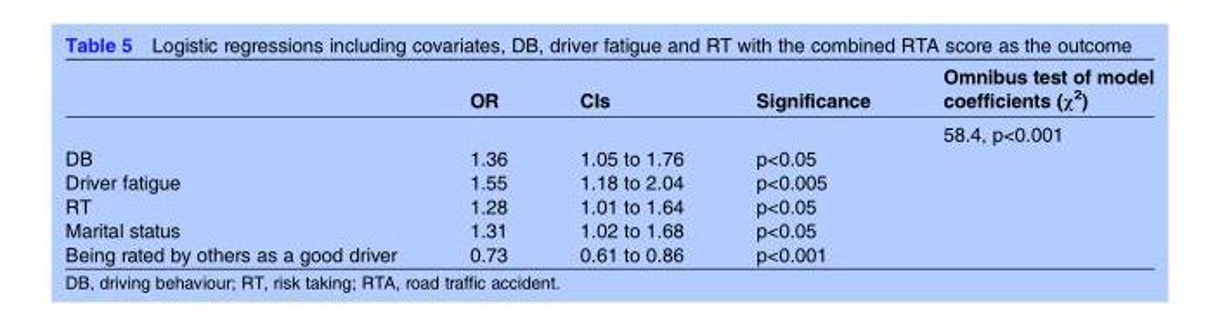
<table><thead><tr><td></td><td>OR</td><td>CIs</td><td>Significance</td><td>Omnibus test of model coefficients (χ<sup>2</sup>)</td></tr></thead><tbody><tr><td></td><td></td><td></td><td></td><td>58.4, p&lt;0.001</td></tr><tr><td>DB</td><td>1.36</td><td>1.05 to 1.76</td><td>p&lt;0.05</td><td></td></tr><tr><td>Driver fatigue</td><td>1.55</td><td>1.18 to 2.04</td><td>p&lt;0.005</td><td></td></tr><tr><td>RT</td><td>1.28</td><td>1.01 to 1.64</td><td>p&lt;0.05</td><td></td></tr><tr><td>Marital status</td><td>1.31</td><td>1.02 to 1.68</td><td>p&lt;0.05</td><td></td></tr><tr><td>Being rated by others as a good driver</td><td>0.73</td><td>0.61 to 0.86</td><td>p&lt;0.001</td><td></td></tr></tbody></table>